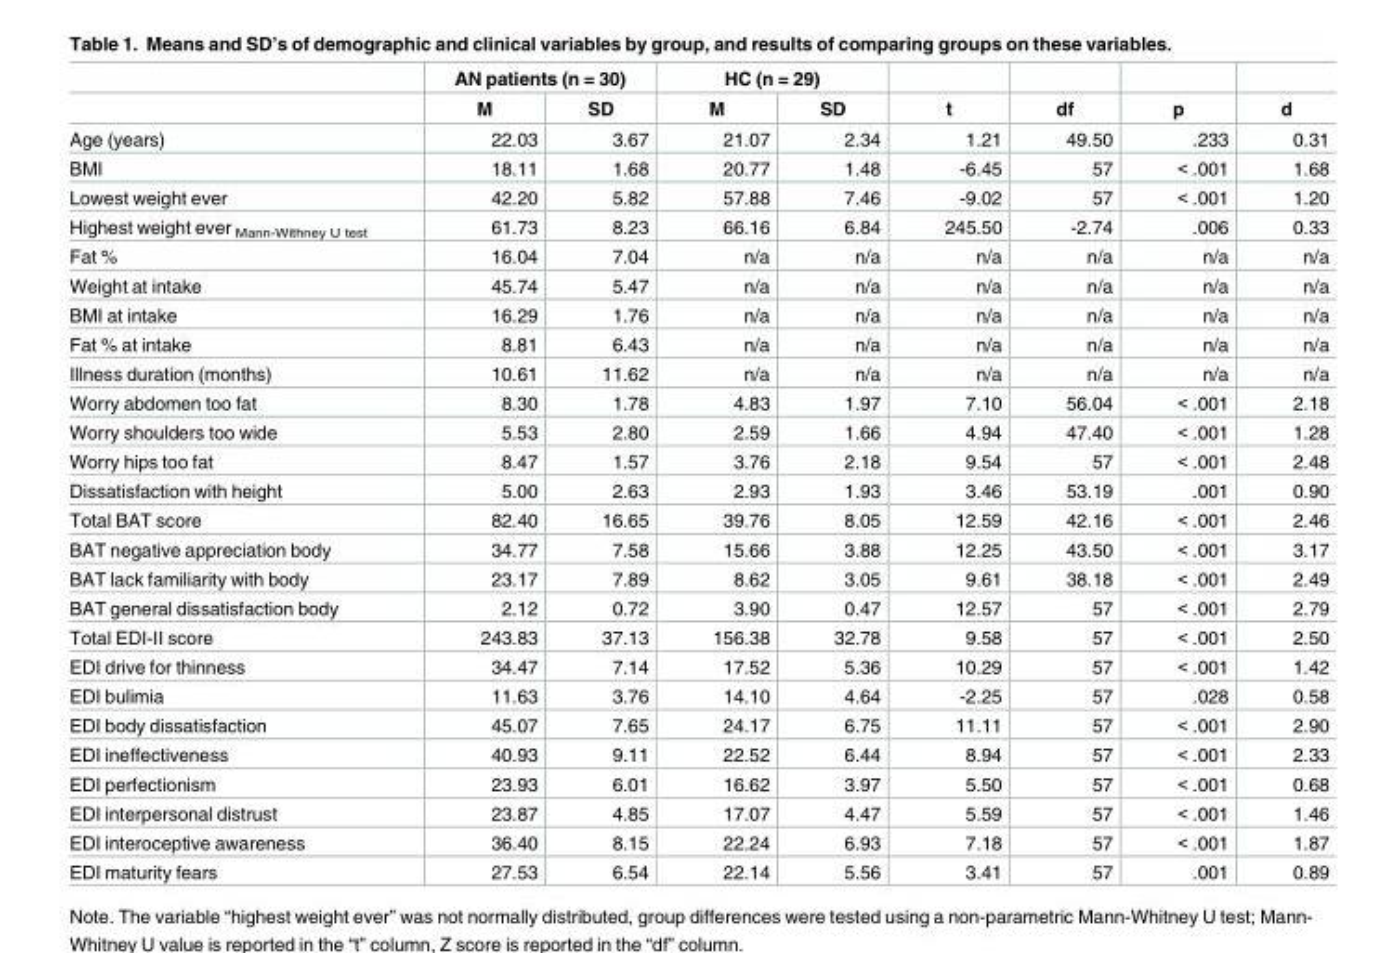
<table><thead><tr><td rowspan="2"></td><td colspan="2">AN patients (n = 30)</td><td colspan="2">HC (n = 29)</td><td rowspan="2">t</td><td rowspan="2">df</td><td rowspan="2">p</td><td rowspan="2">d</td></tr><tr><td>M</td><td>SD</td><td>M</td><td>SD</td></tr></thead><tbody><tr><td>Age (years)</td><td>22.03</td><td>3.67</td><td>21.07</td><td>2.34</td><td>1.21</td><td>49.50</td><td>.233</td><td>0.31</td></tr><tr><td>BMI</td><td>18.11</td><td>1.68</td><td>20.77</td><td>1.48</td><td>-6.45</td><td>57</td><td>&lt; .001</td><td>1.68</td></tr><tr><td>Lowest weight ever</td><td>42.20</td><td>5.82</td><td>57.88</td><td>7.46</td><td>-9.02</td><td>57</td><td>&lt; .001</td><td>1.20</td></tr><tr><td>Highest weight ever <sub>Mann-Withney U test</sub></td><td>61.73</td><td>8.23</td><td>66.16</td><td>6.84</td><td>245.50</td><td>-2.74</td><td>.006</td><td>0.33</td></tr><tr><td>Fat %</td><td>16.04</td><td>7.04</td><td>n/a</td><td>n/a</td><td>n/a</td><td>n/a</td><td>n/a</td><td>n/a</td></tr><tr><td>Weight at intake</td><td>45.74</td><td>5.47</td><td>n/a</td><td>n/a</td><td>n/a</td><td>n/a</td><td>n/a</td><td>n/a</td></tr><tr><td>BMI at intake</td><td>16.29</td><td>1.76</td><td>n/a</td><td>n/a</td><td>n/a</td><td>n/a</td><td>n/a</td><td>n/a</td></tr><tr><td>Fat % at intake</td><td>8.81</td><td>6.43</td><td>n/a</td><td>n/a</td><td>n/a</td><td>n/a</td><td>n/a</td><td>n/a</td></tr><tr><td>Illness duration (months)</td><td>10.61</td><td>11.62</td><td>n/a</td><td>n/a</td><td>n/a</td><td>n/a</td><td>n/a</td><td>n/a</td></tr><tr><td>Worry abdomen too fat</td><td>8.30</td><td>1.78</td><td>4.83</td><td>1.97</td><td>7.10</td><td>56.04</td><td>&lt; .001</td><td>2.18</td></tr><tr><td>Worry shoulders too wide</td><td>5.53</td><td>2.80</td><td>2.59</td><td>1.66</td><td>4.94</td><td>47.40</td><td>&lt; .001</td><td>1.28</td></tr><tr><td>Worry hips too fat</td><td>8.47</td><td>1.57</td><td>3.76</td><td>2.18</td><td>9.54</td><td>57</td><td>&lt; .001</td><td>2.48</td></tr><tr><td>Dissatisfaction with height</td><td>5.00</td><td>2.63</td><td>2.93</td><td>1.93</td><td>3.46</td><td>53.19</td><td>.001</td><td>0.90</td></tr><tr><td>Total BAT score</td><td>82.40</td><td>16.65</td><td>39.76</td><td>8.05</td><td>12.59</td><td>42.16</td><td>&lt; .001</td><td>2.46</td></tr><tr><td>BAT negative appreciation body</td><td>34.77</td><td>7.58</td><td>15.66</td><td>3.88</td><td>12.25</td><td>43.50</td><td>&lt; .001</td><td>3.17</td></tr><tr><td>BAT lack familiarity with body</td><td>23.17</td><td>7.89</td><td>8.62</td><td>3.05</td><td>9.61</td><td>38.18</td><td>&lt; .001</td><td>2.49</td></tr><tr><td>BAT general dissatisfaction body</td><td>2.12</td><td>0.72</td><td>3.90</td><td>0.47</td><td>12.57</td><td>57</td><td>&lt; .001</td><td>2.79</td></tr><tr><td>Total EDI-II score</td><td>243.83</td><td>37.13</td><td>156.38</td><td>32.78</td><td>9.58</td><td>57</td><td>&lt; .001</td><td>2.50</td></tr><tr><td>EDI drive for thinness</td><td>34.47</td><td>7.14</td><td>17.52</td><td>5.36</td><td>10.29</td><td>57</td><td>&lt; .001</td><td>1.42</td></tr><tr><td>EDI bulimia</td><td>11.63</td><td>3.76</td><td>14.10</td><td>4.64</td><td>-2.25</td><td>57</td><td>.028</td><td>0.58</td></tr><tr><td>EDI body dissatisfaction</td><td>45.07</td><td>7.65</td><td>24.17</td><td>6.75</td><td>11.11</td><td>57</td><td>&lt; .001</td><td>2.90</td></tr><tr><td>EDI ineffectiveness</td><td>40.93</td><td>9.11</td><td>22.52</td><td>6.44</td><td>8.94</td><td>57</td><td>&lt; .001</td><td>2.33</td></tr><tr><td>EDI perfectionism</td><td>23.93</td><td>6.01</td><td>16.62</td><td>3.97</td><td>5.50</td><td>57</td><td>&lt; .001</td><td>0.68</td></tr><tr><td>EDI interpersonal distrust</td><td>23.87</td><td>4.85</td><td>17.07</td><td>4.47</td><td>5.59</td><td>57</td><td>&lt; .001</td><td>1.46</td></tr><tr><td>EDI interoceptive awareness</td><td>36.40</td><td>8.15</td><td>22.24</td><td>6.93</td><td>7.18</td><td>57</td><td>&lt; .001</td><td>1.87</td></tr><tr><td>EDI maturity fears</td><td>27.53</td><td>6.54</td><td>22.14</td><td>5.56</td><td>3.41</td><td>57</td><td>.001</td><td>0.89</td></tr></tbody></table>